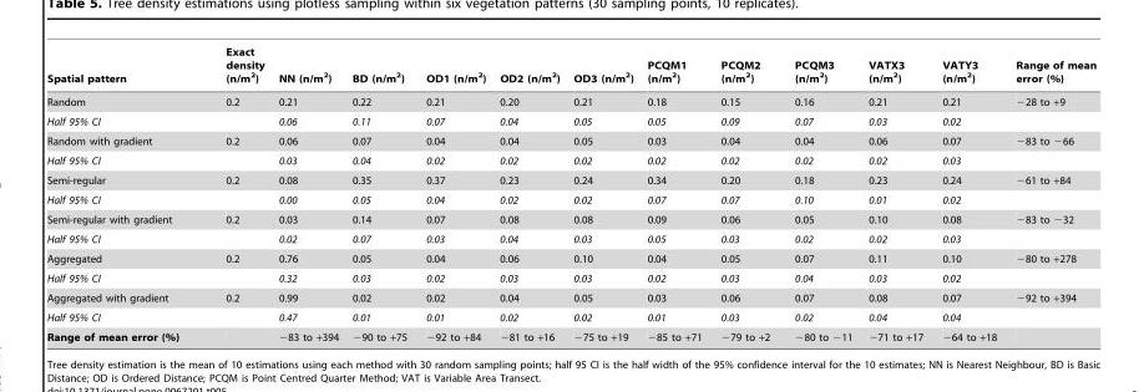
<table><thead><tr><td>Spatial pattern</td><td>Exact density (n/m<sup>2</sup>)</td><td>NN (n/m<sup>2</sup>)</td><td>BD (n/m<sup>2</sup>)</td><td>OD1 (n/m<sup>2</sup>)</td><td>OD2 (n/m<sup>2</sup>)</td><td>OD3 (n/m<sup>2</sup>)</td><td>PCQM1 (n/m<sup>2</sup>)</td><td>PCQM2 (n/m<sup>2</sup>)</td><td>PCQM3 (n/m<sup>2</sup>)</td><td>VATX3 (n/m<sup>2</sup>)</td><td>VATY3 (n/m<sup>2</sup>)</td><td>Range of mean error (%)</td></tr></thead><tbody><tr><td>Random</td><td>0.2</td><td>0.21</td><td>0.22</td><td>0.21</td><td>0.20</td><td>0.21</td><td>0.18</td><td>0.15</td><td>0.16</td><td>0.21</td><td>0.21</td><td>−28 to +9</td></tr><tr><td>Half 95% CI</td><td></td><td>0.06</td><td>0.11</td><td>0.07</td><td>0.04</td><td>0.05</td><td>0.05</td><td>0.09</td><td>0.07</td><td>0.03</td><td>0.02</td><td></td></tr><tr><td>Random with gradient</td><td>0.2</td><td>0.06</td><td>0.07</td><td>0.04</td><td>0.04</td><td>0.05</td><td>0.03</td><td>0.04</td><td>0.04</td><td>0.06</td><td>0.07</td><td>−83 to −66</td></tr><tr><td>Half 95% CI</td><td></td><td>0.03</td><td>0.04</td><td>0.02</td><td>0.02</td><td>0.02</td><td>0.02</td><td>0.02</td><td>0.02</td><td>0.02</td><td>0.03</td><td></td></tr><tr><td>Semi-regular</td><td>0.2</td><td>0.08</td><td>0.35</td><td>0.37</td><td>0.23</td><td>0.24</td><td>0.34</td><td>0.20</td><td>0.18</td><td>0.23</td><td>0.24</td><td>−61 to +84</td></tr><tr><td>Half 95% CI</td><td></td><td>0.00</td><td>0.05</td><td>0.04</td><td>0.02</td><td>0.02</td><td>0.07</td><td>0.07</td><td>0.10</td><td>0.01</td><td>0.02</td><td></td></tr><tr><td>Semi-regular with gradient</td><td>0.2</td><td>0.03</td><td>0.14</td><td>0.07</td><td>0.08</td><td>0.08</td><td>0.09</td><td>0.06</td><td>0.05</td><td>0.10</td><td>0.08</td><td>−83 to −32</td></tr><tr><td>Half 95% CI</td><td></td><td>0.02</td><td>0.07</td><td>0.03</td><td>0.04</td><td>0.03</td><td>0.05</td><td>0.03</td><td>0.02</td><td>0.02</td><td>0.03</td><td></td></tr><tr><td>Aggregated</td><td>0.2</td><td>0.76</td><td>0.05</td><td>0.04</td><td>0.06</td><td>0.10</td><td>0.04</td><td>0.05</td><td>0.07</td><td>0.11</td><td>0.10</td><td>−80 to +278</td></tr><tr><td>Half 95% CI</td><td></td><td>0.32</td><td>0.03</td><td>0.02</td><td>0.03</td><td>0.03</td><td>0.02</td><td>0.03</td><td>0.04</td><td>0.03</td><td>0.02</td><td></td></tr><tr><td>Aggregated with gradient</td><td>0.2</td><td>0.99</td><td>0.02</td><td>0.02</td><td>0.04</td><td>0.05</td><td>0.03</td><td>0.06</td><td>0.07</td><td>0.08</td><td>0.07</td><td>−92 to +394</td></tr><tr><td>Half 95% CI</td><td></td><td>0.47</td><td>0.01</td><td>0.01</td><td>0.02</td><td>0.02</td><td>0.01</td><td>0.03</td><td>0.02</td><td>0.04</td><td>0.04</td><td></td></tr><tr><td>Range of mean error (%)</td><td></td><td>−83 to +394</td><td>−90 to +75</td><td>−92 to +84</td><td>−81 to +16</td><td>−75 to +19</td><td>−85 to +71</td><td>−79 to +2</td><td>−80 to −11</td><td>−71 to +17</td><td>−64 to +18</td><td></td></tr></tbody></table>